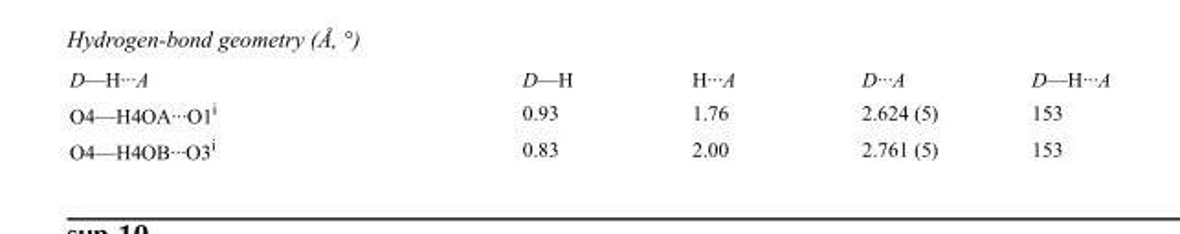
<table><tbody><tr><td>D—H···A</td><td>D—H</td><td>H···A</td><td>D···A</td><td>D—H···A</td></tr><tr><td>O4—H4OA···O1<sup>i</sup></td><td>0.93</td><td>1.76</td><td>2.624 (5)</td><td>153</td></tr><tr><td>O4—H4OB···O3<sup>i</sup></td><td>0.83</td><td>2.00</td><td>2.761 (5)</td><td>153</td></tr></tbody></table>